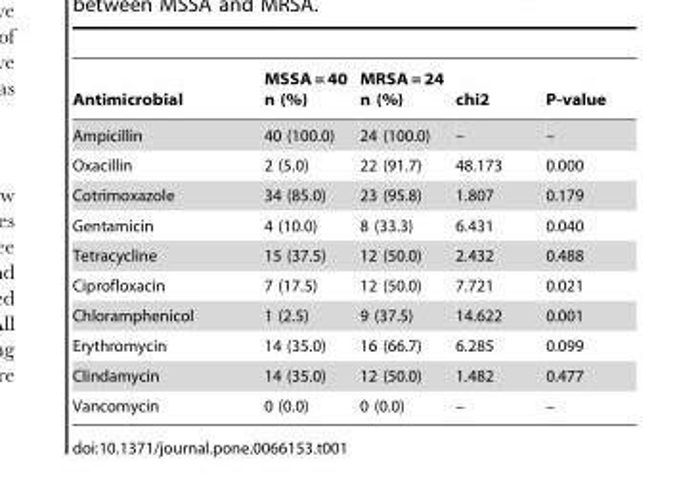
<table><thead><tr><td>Antimicrobial</td><td>MSSA = 40 n (%)</td><td>MRSA = 24 n (%)</td><td>chi2</td><td>P-value</td></tr></thead><tbody><tr><td>Ampicillin</td><td>40 (100.0)</td><td>24 (100.0)</td><td>–</td><td>–</td></tr><tr><td>Oxacillin</td><td>2 (5.0)</td><td>22 (91.7)</td><td>48.173</td><td>0.000</td></tr><tr><td>Cotrimoxazole</td><td>34 (85.0)</td><td>23 (95.8)</td><td>1.807</td><td>0.179</td></tr><tr><td>Gentamicin</td><td>4 (10.0)</td><td>8 (33.3)</td><td>6.431</td><td>0.040</td></tr><tr><td>Tetracycline</td><td>15 (37.5)</td><td>12 (50.0)</td><td>2.432</td><td>0.488</td></tr><tr><td>Ciprofloxacin</td><td>7 (17.5)</td><td>12 (50.0)</td><td>7.721</td><td>0.021</td></tr><tr><td>Chloramphenicol</td><td>1 (2.5)</td><td>9 (37.5)</td><td>14.622</td><td>0.001</td></tr><tr><td>Erythromycin</td><td>14 (35.0)</td><td>16 (66.7)</td><td>6.285</td><td>0.099</td></tr><tr><td>Clindamycin</td><td>14 (35.0)</td><td>12 (50.0)</td><td>1.482</td><td>0.477</td></tr><tr><td>Vancomycin</td><td>0 (0.0)</td><td>0 (0.0)</td><td>–</td><td>–</td></tr></tbody></table>